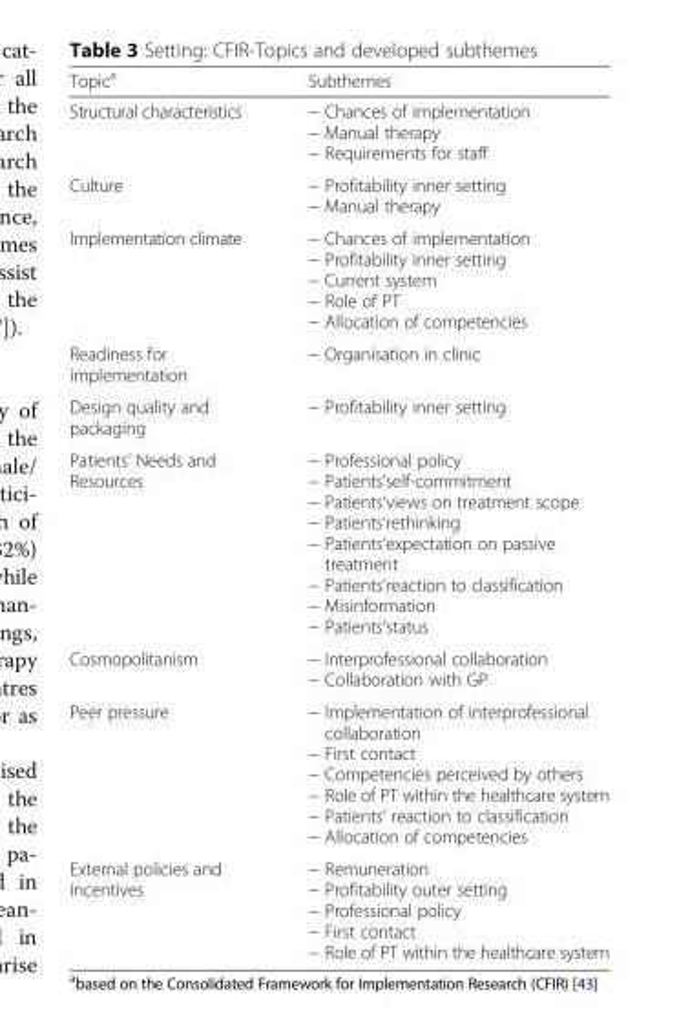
<table><thead><tr><td>Topic<sup>a</sup></td><td>Subthemes</td></tr></thead><tbody><tr><td>Structural characteristics</td><td>− Chances of implementation − Manual therapy − Requirements for staff</td></tr><tr><td>Culture</td><td>− Profitability inner setting − Manual therapy</td></tr><tr><td>Implementation climate</td><td>− Chances of implementation − Profitability inner setting − Current system − Role of PT − Allocation of competencies</td></tr><tr><td>Readiness for implementation</td><td>− Organisation in clinic</td></tr><tr><td>Design quality and packaging</td><td>− Profitability inner setting</td></tr><tr><td>Patients’ Needs and Resources</td><td>− Professional policy − Patients‘self-commitment − Patients‘views on treatment scope − Patients‘rethinking − Patients‘expectation on passive treatment − Patients‘reaction to classification − Misinformation − Patients‘status</td></tr><tr><td>Cosmopolitanism</td><td>− Interprofessional collaboration − Collaboration with GP</td></tr><tr><td>Peer pressure</td><td>− Implementation of interprofessional collaboration − First contact − Competencies perceived by others − Role of PT within the healthcare system − Patients’ reaction to classification − Allocation of competencies</td></tr><tr><td>External policies and incentives</td><td>− Remuneration − Profitability outer setting − Professional policy − First contact − Role of PT within the healthcare system</td></tr></tbody></table>